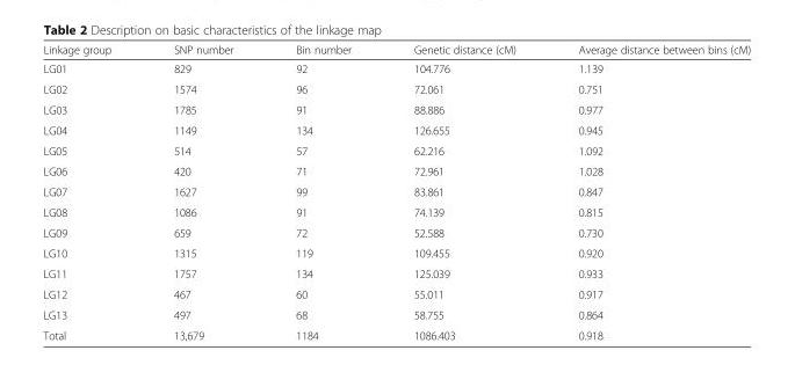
<table><thead><tr><td>Linkage group</td><td>SNP number</td><td>Bin number</td><td>Genetic distance (cM)</td><td>Average distance between bins (cM)</td></tr></thead><tbody><tr><td>LG01</td><td>829</td><td>92</td><td>104.776</td><td>1.139</td></tr><tr><td>LG02</td><td>1574</td><td>96</td><td>72.061</td><td>0.751</td></tr><tr><td>LG03</td><td>1785</td><td>91</td><td>88.886</td><td>0.977</td></tr><tr><td>LG04</td><td>1149</td><td>134</td><td>126.655</td><td>0.945</td></tr><tr><td>LG05</td><td>514</td><td>57</td><td>62.216</td><td>1.092</td></tr><tr><td>LG06</td><td>420</td><td>71</td><td>72.961</td><td>1.028</td></tr><tr><td>LG07</td><td>1627</td><td>99</td><td>83.861</td><td>0.847</td></tr><tr><td>LG08</td><td>1086</td><td>91</td><td>74.139</td><td>0.815</td></tr><tr><td>LG09</td><td>659</td><td>72</td><td>52.588</td><td>0.730</td></tr><tr><td>LG10</td><td>1315</td><td>119</td><td>109.455</td><td>0.920</td></tr><tr><td>LG11</td><td>1757</td><td>134</td><td>125.039</td><td>0.933</td></tr><tr><td>LG12</td><td>467</td><td>60</td><td>55.011</td><td>0.917</td></tr><tr><td>LG13</td><td>497</td><td>68</td><td>58.755</td><td>0.864</td></tr><tr><td>Total</td><td>13,679</td><td>1184</td><td>1086.403</td><td>0.918</td></tr></tbody></table>